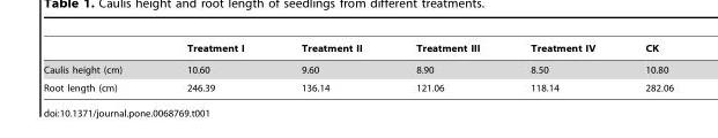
<table><thead><tr><td></td><td>Treatment I</td><td>Treatment II</td><td>Treatment III</td><td>Treatment IV</td><td>CK</td></tr></thead><tbody><tr><td>Caulis height (cm)</td><td>10.60</td><td>9.60</td><td>8.90</td><td>8.50</td><td>10.80</td></tr><tr><td>Root length (cm)</td><td>246.39</td><td>136.14</td><td>121.06</td><td>118.14</td><td>282.06</td></tr></tbody></table>